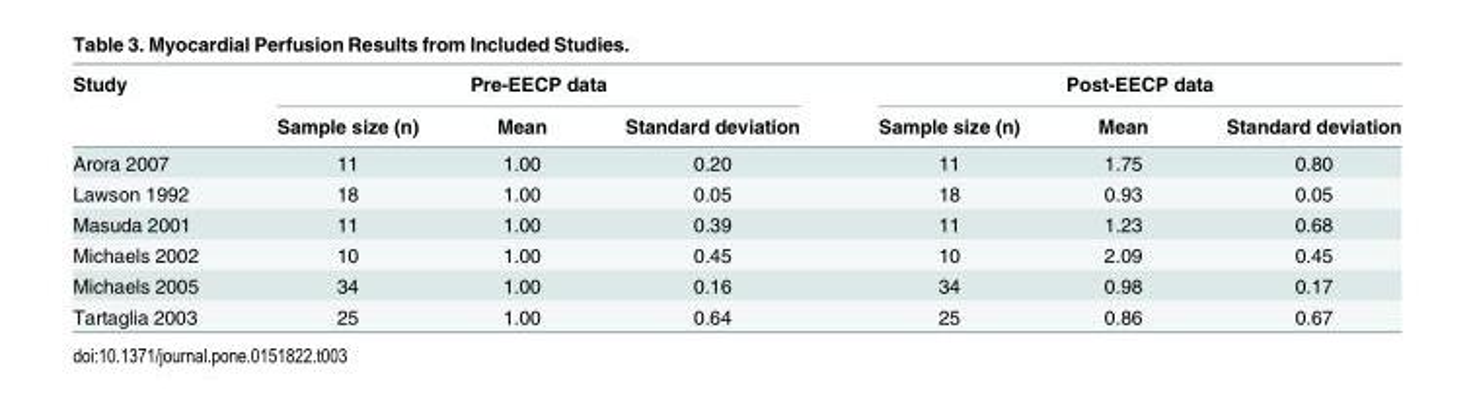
<table><thead><tr><td rowspan="2">Study</td><td colspan="3">Pre-EECP data</td><td colspan="3">Post-EECP data</td></tr><tr><td>Sample size (n)</td><td>Mean</td><td>Standard deviation</td><td>Sample size (n)</td><td>Mean</td><td>Standard deviation</td></tr></thead><tbody><tr><td>Arora 2007</td><td>11</td><td>1.00</td><td>0.20</td><td>11</td><td>1.75</td><td>0.80</td></tr><tr><td>Lawson 1992</td><td>18</td><td>1.00</td><td>0.05</td><td>18</td><td>0.93</td><td>0.05</td></tr><tr><td>Masuda 2001</td><td>11</td><td>1.00</td><td>0.39</td><td>11</td><td>1.23</td><td>0.68</td></tr><tr><td>Michaels 2002</td><td>10</td><td>1.00</td><td>0.45</td><td>10</td><td>2.09</td><td>0.45</td></tr><tr><td>Michaels 2005</td><td>34</td><td>1.00</td><td>0.16</td><td>34</td><td>0.98</td><td>0.17</td></tr><tr><td>Tartaglia 2003</td><td>25</td><td>1.00</td><td>0.64</td><td>25</td><td>0.86</td><td>0.67</td></tr></tbody></table>